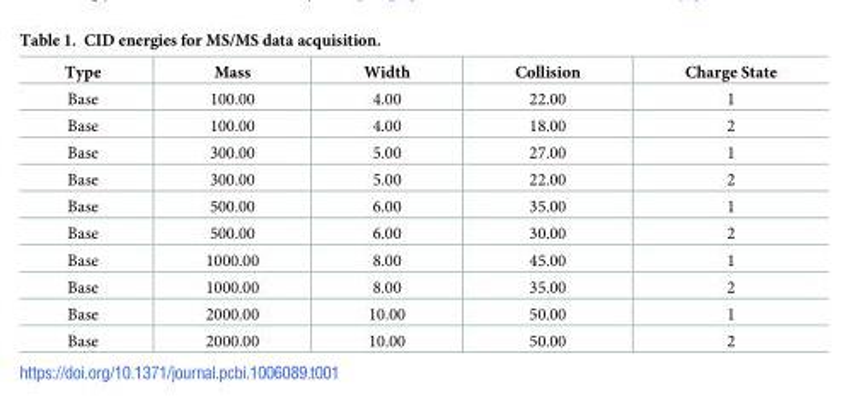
<table><thead><tr><td>Type</td><td>Mass</td><td>Width</td><td>Collision</td><td>Charge State</td></tr></thead><tbody><tr><td>Base</td><td>100.00</td><td>4.00</td><td>22.00</td><td>1</td></tr><tr><td>Base</td><td>100.00</td><td>4.00</td><td>18.00</td><td>2</td></tr><tr><td>Base</td><td>300.00</td><td>5.00</td><td>27.00</td><td>1</td></tr><tr><td>Base</td><td>300.00</td><td>5.00</td><td>22.00</td><td>2</td></tr><tr><td>Base</td><td>500.00</td><td>6.00</td><td>35.00</td><td>1</td></tr><tr><td>Base</td><td>500.00</td><td>6.00</td><td>30.00</td><td>2</td></tr><tr><td>Base</td><td>1000.00</td><td>8.00</td><td>45.00</td><td>1</td></tr><tr><td>Base</td><td>1000.00</td><td>8.00</td><td>35.00</td><td>2</td></tr><tr><td>Base</td><td>2000.00</td><td>10.00</td><td>50.00</td><td>1</td></tr><tr><td>Base</td><td>2000.00</td><td>10.00</td><td>50.00</td><td>2</td></tr></tbody></table>